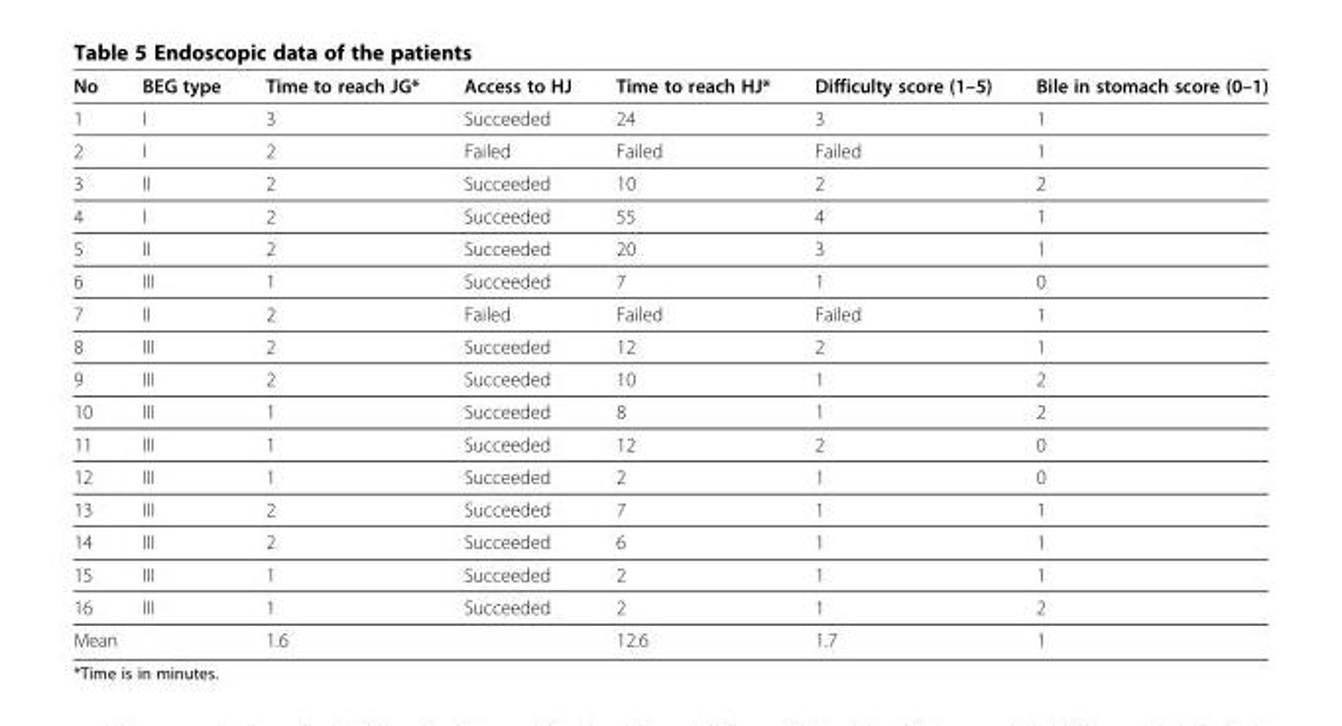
<table><thead><tr><td>No</td><td>BEG type</td><td>Time to reach JG*</td><td>Access to HJ</td><td>Time to reach HJ*</td><td>Difficulty score (1–5)</td><td>Bile in stomach score (0–1)</td></tr></thead><tbody><tr><td>1</td><td>I</td><td>3</td><td>Succeeded</td><td>24</td><td>3</td><td>1</td></tr><tr><td>2</td><td>I</td><td>2</td><td>Failed</td><td>Failed</td><td>Failed</td><td>1</td></tr><tr><td>3</td><td>II</td><td>2</td><td>Succeeded</td><td>10</td><td>2</td><td>2</td></tr><tr><td>4</td><td>I</td><td>2</td><td>Succeeded</td><td>55</td><td>4</td><td>1</td></tr><tr><td>5</td><td>II</td><td>2</td><td>Succeeded</td><td>20</td><td>3</td><td>1</td></tr><tr><td>6</td><td>III</td><td>1</td><td>Succeeded</td><td>7</td><td>1</td><td>0</td></tr><tr><td>7</td><td>II</td><td>2</td><td>Failed</td><td>Failed</td><td>Failed</td><td>1</td></tr><tr><td>8</td><td>III</td><td>2</td><td>Succeeded</td><td>12</td><td>2</td><td>1</td></tr><tr><td>9</td><td>III</td><td>2</td><td>Succeeded</td><td>10</td><td>1</td><td>2</td></tr><tr><td>10</td><td>III</td><td>1</td><td>Succeeded</td><td>8</td><td>1</td><td>2</td></tr><tr><td>11</td><td>III</td><td>1</td><td>Succeeded</td><td>12</td><td>2</td><td>0</td></tr><tr><td>12</td><td>III</td><td>1</td><td>Succeeded</td><td>2</td><td>1</td><td>0</td></tr><tr><td>13</td><td>III</td><td>2</td><td>Succeeded</td><td>7</td><td>1</td><td>1</td></tr><tr><td>14</td><td>III</td><td>2</td><td>Succeeded</td><td>6</td><td>1</td><td>1</td></tr><tr><td>15</td><td>III</td><td>1</td><td>Succeeded</td><td>2</td><td>1</td><td>1</td></tr><tr><td>16</td><td>III</td><td>1</td><td>Succeeded</td><td>2</td><td>1</td><td>2</td></tr><tr><td colspan="2">Mean</td><td>1.6</td><td></td><td>12.6</td><td>1.7</td><td>1</td></tr></tbody></table>